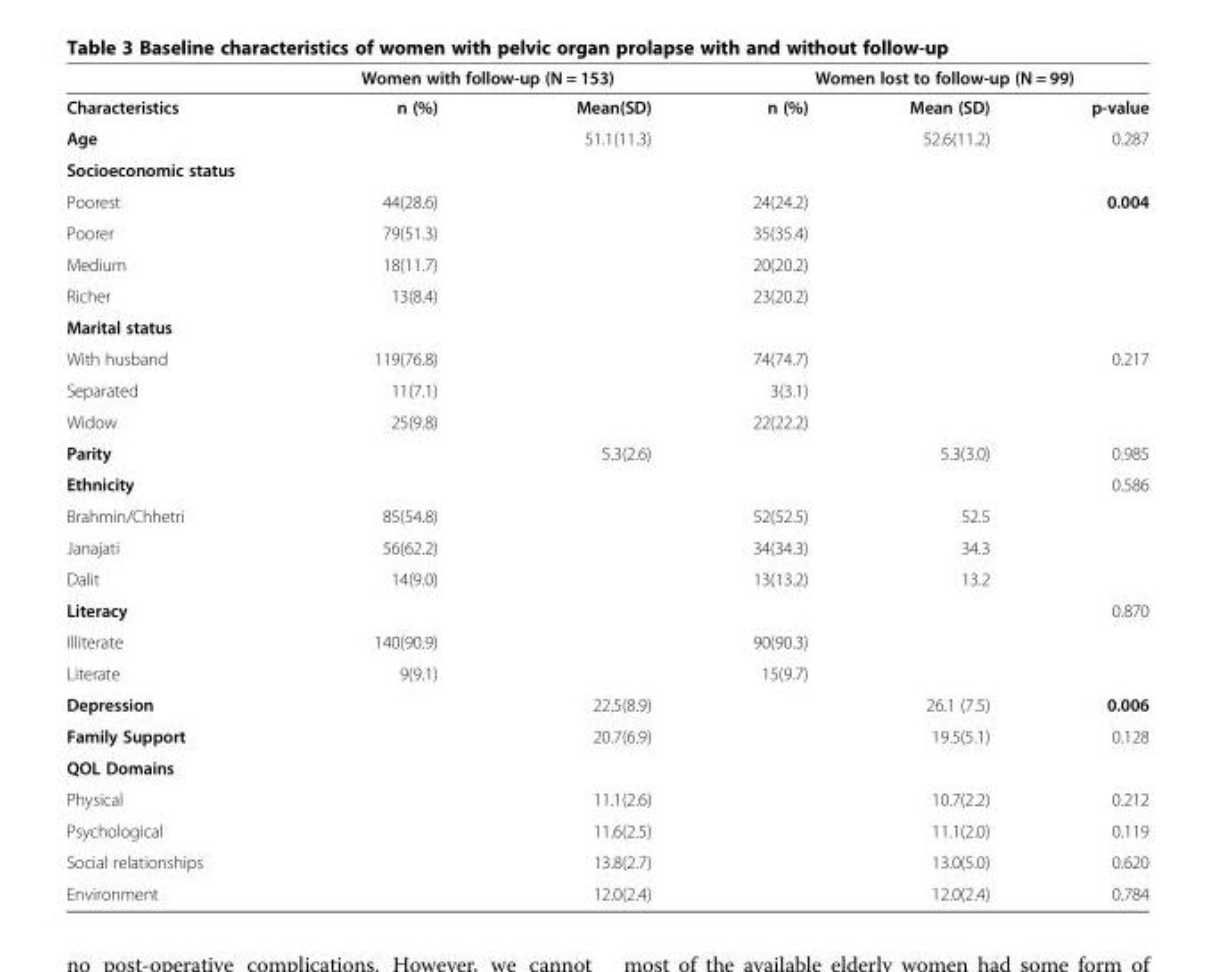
<table><thead><tr><td rowspan="2">Characteristics</td><td colspan="2">Women with follow-up (N = 153)</td><td colspan="3">Women lost to follow-up (N = 99)</td></tr><tr><td>n (%)</td><td>Mean(SD)</td><td>n (%)</td><td>Mean (SD)</td><td>p-value</td></tr></thead><tbody><tr><td>Age</td><td></td><td>51.1(11.3)</td><td></td><td>52.6(11.2)</td><td>0.287</td></tr><tr><td colspan="6">Socioeconomic status</td></tr><tr><td>Poorest</td><td>44(28.6)</td><td></td><td>24(24.2)</td><td></td><td>0.004</td></tr><tr><td>Poorer</td><td>79(51.3)</td><td></td><td>35(35.4)</td><td></td><td></td></tr><tr><td>Medium</td><td>18(11.7)</td><td></td><td>20(20.2)</td><td></td><td></td></tr><tr><td>Richer</td><td>13(8.4)</td><td></td><td>23(20.2)</td><td></td><td></td></tr><tr><td colspan="6">Marital status</td></tr><tr><td>With husband</td><td>119(76.8)</td><td></td><td>74(74.7)</td><td></td><td>0.217</td></tr><tr><td>Separated</td><td>11(7.1)</td><td></td><td>3(3.1)</td><td></td><td></td></tr><tr><td>Widow</td><td>25(9.8)</td><td></td><td>22(22.2)</td><td></td><td></td></tr><tr><td>Parity</td><td></td><td>5.3(2.6)</td><td></td><td>5.3(3.0)</td><td>0.985</td></tr><tr><td>Ethnicity</td><td></td><td></td><td></td><td></td><td>0.586</td></tr><tr><td>Brahmin/Chhetri</td><td>85(54.8)</td><td></td><td>52(52.5)</td><td>52.5</td><td></td></tr><tr><td>Janajati</td><td>56(62.2)</td><td></td><td>34(34.3)</td><td>34.3</td><td></td></tr><tr><td>Dalit</td><td>14(9.0)</td><td></td><td>13(13.2)</td><td>13.2</td><td></td></tr><tr><td>Literacy</td><td></td><td></td><td></td><td></td><td>0.870</td></tr><tr><td>Illiterate</td><td>140(90.9)</td><td></td><td>90(90.3)</td><td></td><td></td></tr><tr><td>Literate</td><td>9(9.1)</td><td></td><td>15(9.7)</td><td></td><td></td></tr><tr><td>Depression</td><td></td><td>22.5(8.9)</td><td></td><td>26.1 (7.5)</td><td>0.006</td></tr><tr><td>Family Support</td><td></td><td>20.7(6.9)</td><td></td><td>19.5(5.1)</td><td>0.128</td></tr><tr><td colspan="6">QOL Domains</td></tr><tr><td>Physical</td><td></td><td>11.1(2.6)</td><td></td><td>10.7(2.2)</td><td>0.212</td></tr><tr><td>Psychological</td><td></td><td>11.6(2.5)</td><td></td><td>11.1(2.0)</td><td>0.119</td></tr><tr><td>Social relationships</td><td></td><td>13.8(2.7)</td><td></td><td>13.0(5.0)</td><td>0.620</td></tr><tr><td>Environment</td><td></td><td>12.0(2.4)</td><td></td><td>12.0(2.4)</td><td>0.784</td></tr></tbody></table>